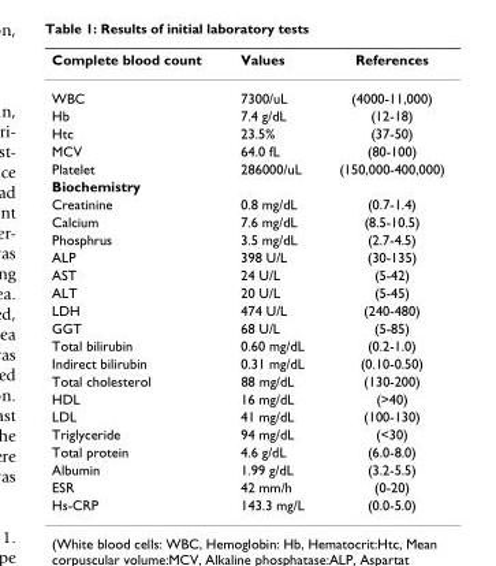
<table><thead><tr><td>Complete blood count</td><td>Values</td><td>References</td></tr></thead><tbody><tr><td>WBC</td><td>7300/uL</td><td>(4000-11,000)</td></tr><tr><td>Hb</td><td>7.4 g/dL</td><td>(12-18)</td></tr><tr><td>Htc</td><td>23.5%</td><td>(37-50)</td></tr><tr><td>MCV</td><td>64.0 fL</td><td>(80-100)</td></tr><tr><td>Platelet</td><td>286000/uL</td><td>(150,000-400,000)</td></tr><tr><td colspan="3">Biochemistry</td></tr><tr><td>Creatinine</td><td>0.8 mg/dL</td><td>(0.7-1.4)</td></tr><tr><td>Calcium</td><td>7.6 mg/dL</td><td>(8.5-10.5)</td></tr><tr><td>Phosphrus</td><td>3.5 mg/dL</td><td>(2.7-4.5)</td></tr><tr><td>ALP</td><td>398 U/L</td><td>(30-135)</td></tr><tr><td>AST</td><td>24 U/L</td><td>(5-42)</td></tr><tr><td>ALT</td><td>20 U/L</td><td>(5-45)</td></tr><tr><td>LDH</td><td>474 U/L</td><td>(240-480)</td></tr><tr><td>GGT</td><td>68 U/L</td><td>(5-85)</td></tr><tr><td>Total bilirubin</td><td>0.60 mg/dL</td><td>(0.2-1.0)</td></tr><tr><td>Indirect bilirubin</td><td>0.31 mg/dL</td><td>(0.10-0.50)</td></tr><tr><td>Total cholesterol</td><td>88 mg/dL</td><td>(130-200)</td></tr><tr><td>HDL</td><td>16 mg/dL</td><td>(&gt;40)</td></tr><tr><td>LDL</td><td>41 mg/dL</td><td>(100-130)</td></tr><tr><td>Triglyceride</td><td>94 mg/dL</td><td>(&lt;30)</td></tr><tr><td>Total protein</td><td>4.6 g/dL</td><td>(6.0-8.0)</td></tr><tr><td>Albumin</td><td>1.99 g/dL</td><td>(3.2-5.5)</td></tr><tr><td>ESR</td><td>42 mm/h</td><td>(0-20)</td></tr><tr><td>Hs-CRP</td><td>143.3 mg/L</td><td>(0.0-5.0)</td></tr></tbody></table>